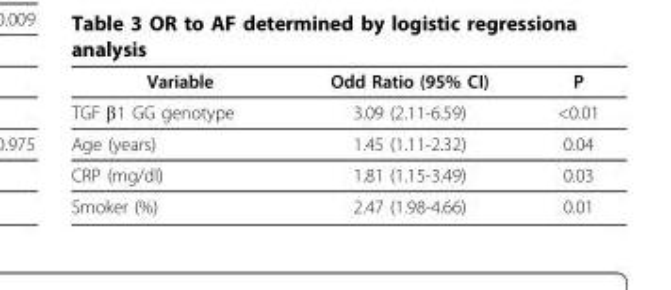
<table><thead><tr><td>Variable</td><td>Odd Ratio (95% CI)</td><td>P</td></tr></thead><tbody><tr><td>TGF β1 GG genotype</td><td>3.09 (2.11-6.59)</td><td>&lt;0.01</td></tr><tr><td>Age (years)</td><td>1.45 (1.11-2.32)</td><td>0.04</td></tr><tr><td>CRP (mg/dl)</td><td>1.81 (1.15-3.49)</td><td>0.03</td></tr><tr><td>Smoker (%)</td><td>2.47 (1.98-4.66)</td><td>0.01</td></tr></tbody></table>